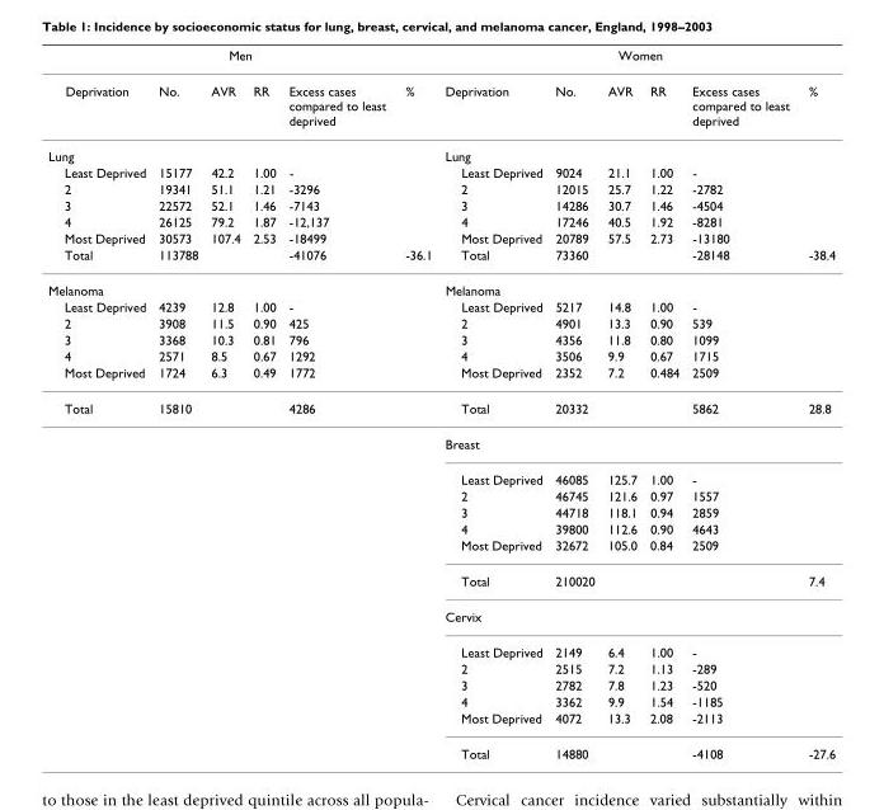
<table><thead><tr><td colspan="6">Men</td><td colspan="6">Women</td></tr><tr><td>Deprivation</td><td>No.</td><td>AVR</td><td>RR</td><td>Excess cases compared to least deprived</td><td>%</td><td>Deprivation</td><td>No.</td><td>AVR</td><td>RR</td><td>Excess cases compared to least deprived</td><td>%</td></tr></thead><tbody><tr><td>Lung</td><td></td><td></td><td></td><td></td><td></td><td>Lung</td><td></td><td></td><td></td><td></td><td></td></tr><tr><td>Least Deprived</td><td>15177</td><td>42.2</td><td>1.00</td><td>-</td><td></td><td>Least Deprived</td><td>9024</td><td>21.1</td><td>1.00</td><td>-</td><td></td></tr><tr><td>2</td><td>19341</td><td>51.1</td><td>1.21</td><td>-3296</td><td></td><td>2</td><td>12015</td><td>25.7</td><td>1.22</td><td>-2782</td><td></td></tr><tr><td>3</td><td>22572</td><td>52.1</td><td>1.46</td><td>-7143</td><td></td><td>3</td><td>14286</td><td>30.7</td><td>1.46</td><td>-4504</td><td></td></tr><tr><td>4</td><td>26125</td><td>79.2</td><td>1.87</td><td>-12,137</td><td></td><td>4</td><td>17246</td><td>40.5</td><td>1.92</td><td>-8281</td><td></td></tr><tr><td>Most Deprived</td><td>30573</td><td>107.4</td><td>2.53</td><td>-18499</td><td></td><td>Most Deprived</td><td>20789</td><td>57.5</td><td>2.73</td><td>-13180</td><td></td></tr><tr><td>Total</td><td>113788</td><td></td><td></td><td>-41076</td><td>-36.1</td><td>Total</td><td>73360</td><td></td><td></td><td>-28148</td><td>-38.4</td></tr><tr><td>Melanoma</td><td></td><td></td><td></td><td></td><td></td><td>Melanoma</td><td></td><td></td><td></td><td></td><td></td></tr><tr><td>Least Deprived</td><td>4239</td><td>12.8</td><td>1.00</td><td>-</td><td></td><td>Least Deprived</td><td>5217</td><td>14.8</td><td>1.00</td><td>-</td><td></td></tr><tr><td>2</td><td>3908</td><td>11.5</td><td>0.90</td><td>425</td><td></td><td>2</td><td>4901</td><td>13.3</td><td>0.90</td><td>539</td><td></td></tr><tr><td>3</td><td>3368</td><td>10.3</td><td>0.81</td><td>796</td><td></td><td>3</td><td>4356</td><td>11.8</td><td>0.80</td><td>1099</td><td></td></tr><tr><td>4</td><td>2571</td><td>8.5</td><td>0.67</td><td>1292</td><td></td><td>4</td><td>3506</td><td>9.9</td><td>0.67</td><td>1715</td><td></td></tr><tr><td>Most Deprived</td><td>1724</td><td>6.3</td><td>0.49</td><td>1772</td><td></td><td>Most Deprived</td><td>2352</td><td>7.2</td><td>0.484</td><td>2509</td><td></td></tr><tr><td rowspan="15">Total</td><td>15810</td><td></td><td></td><td>4286</td><td></td><td>Total</td><td>20332</td><td></td><td></td><td>5862</td><td>28.8</td></tr><tr><td></td><td></td><td></td><td></td><td></td><td>Breast</td><td></td><td></td><td></td><td></td><td></td></tr><tr><td></td><td></td><td></td><td></td><td></td><td>Least Deprived</td><td>46085</td><td>125.7</td><td>1.00</td><td>-</td><td></td></tr><tr><td></td><td></td><td></td><td></td><td></td><td>2</td><td>46745</td><td>121.6</td><td>0.97</td><td>1557</td><td></td></tr><tr><td></td><td></td><td></td><td></td><td></td><td>3</td><td>44718</td><td>118.1</td><td>0.94</td><td>2859</td><td></td></tr><tr><td></td><td></td><td></td><td></td><td></td><td>4</td><td>39800</td><td>112.6</td><td>0.90</td><td>4643</td><td></td></tr><tr><td></td><td></td><td></td><td></td><td></td><td>Most Deprived</td><td>32672</td><td>105.0</td><td>0.84</td><td>2509</td><td></td></tr><tr><td></td><td></td><td></td><td></td><td></td><td>Total</td><td>210020</td><td></td><td></td><td></td><td>7.4</td></tr><tr><td></td><td></td><td></td><td></td><td></td><td>Cervix</td><td></td><td></td><td></td><td></td><td></td></tr><tr><td></td><td></td><td></td><td></td><td></td><td>Least Deprived</td><td>2149</td><td>6.4</td><td>1.00</td><td>-</td><td></td></tr><tr><td></td><td></td><td></td><td></td><td></td><td>2</td><td>2515</td><td>7.2</td><td>1.13</td><td>-289</td><td></td></tr><tr><td></td><td></td><td></td><td></td><td></td><td>3</td><td>2782</td><td>7.8</td><td>1.23</td><td>-520</td><td></td></tr><tr><td></td><td></td><td></td><td></td><td></td><td>4</td><td>3362</td><td>9.9</td><td>1.54</td><td>-1185</td><td></td></tr><tr><td></td><td></td><td></td><td></td><td></td><td>Most Deprived</td><td>4072</td><td>13.3</td><td>2.08</td><td>-2113</td><td></td></tr><tr><td></td><td></td><td></td><td></td><td></td><td>Total</td><td>14880</td><td></td><td></td><td>-4108</td><td>-27.6</td></tr></tbody></table>